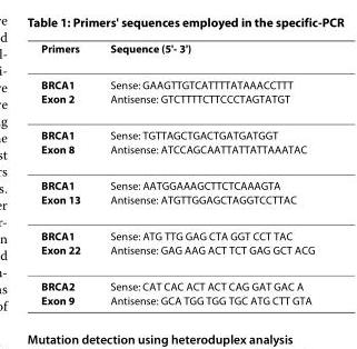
<table><thead><tr><td>Primers</td><td>Sequence (5&#x27;- 3&#x27;)</td></tr></thead><tbody><tr><td>BRCA1 Exon 2</td><td>Sense: GAAGTTGTCATTTTATAAACCTTT Antisense: GTCTTTTCTTCCCTAGTATGT</td></tr><tr><td>BRCA1 Exon 8</td><td>Sense: TGTTAGCTGACTGATGATGGT Antisense: ATCCAGCAATTATTATTAAATAC</td></tr><tr><td>BRCA1 Exon 13</td><td>Sense: AATGGAAAGCTTCTCAAAGTA Antisense: ATGTTGGAGCTAGGTCCTTAC</td></tr><tr><td>BRCA1 Exon 22</td><td>Sense: ATG TTG GAG CTA GGT CCT TAC Antisense: GAG AAG ACT TCT GAG GCT ACG</td></tr><tr><td>BRCA2 Exon 9</td><td>Sense: CAT CAC ACT ACT CAG GAT GAC A Antisense: GCA TGG TGG TGC ATG CTT GTA</td></tr></tbody></table>